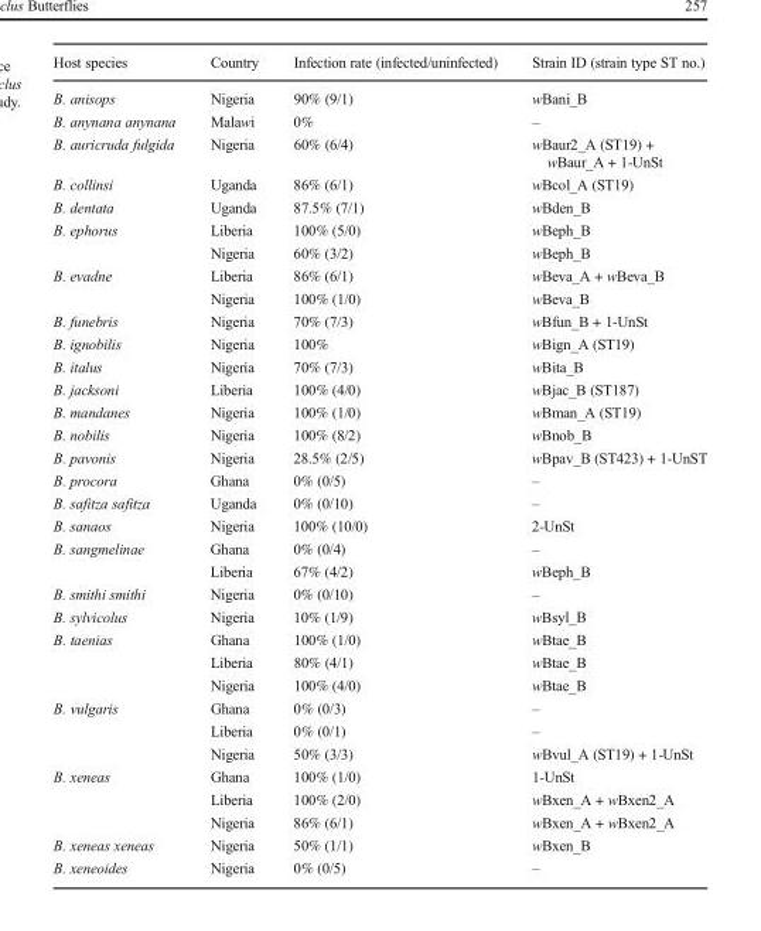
<table><thead><tr><td>Host species</td><td>Country</td><td>Infection rate (infected/uninfected)</td><td>Strain ID (strain type ST no.)</td></tr></thead><tbody><tr><td>B. anisops</td><td>Nigeria</td><td>90% (9/1)</td><td>wBani_B</td></tr><tr><td>B. anynana anynana</td><td>Malawi</td><td>0%</td><td>–</td></tr><tr><td>B. auricruda fulgida</td><td>Nigeria</td><td>60% (6/4)</td><td>wBaur2_A (ST19) + wBaur_A + 1-UnSt</td></tr><tr><td>B. collinsi</td><td>Uganda</td><td>86% (6/1)</td><td>wBcol_A (ST19)</td></tr><tr><td>B. dentata</td><td>Uganda</td><td>87.5% (7/1)</td><td>wBden_B</td></tr><tr><td>B. ephorus</td><td>Liberia Nigeria</td><td>100% (5/0) 60% (3/2)</td><td>wBeph_B wBeph_B</td></tr><tr><td>B. evadne</td><td>Liberia Nigeria</td><td>86% (6/1) 100% (1/0)</td><td>wBeva_A + wBeva_B wBeva_B</td></tr><tr><td>B. funebris</td><td>Nigeria</td><td>70% (7/3)</td><td>wBfun_B + 1-UnSt</td></tr><tr><td>B. ignobilis</td><td>Nigeria</td><td>100%</td><td>wBign_A (ST19)</td></tr><tr><td>B. italus</td><td>Nigeria</td><td>70% (7/3)</td><td>wBita_B</td></tr><tr><td>B. jacksoni</td><td>Liberia</td><td>100% (4/0)</td><td>wBjac_B (ST187)</td></tr><tr><td>B. mandanes</td><td>Nigeria</td><td>100% (1/0)</td><td>wBman_A (ST19)</td></tr><tr><td>B. nobilis</td><td>Nigeria</td><td>100% (8/2)</td><td>wBnob_B</td></tr><tr><td>B. pavonis</td><td>Nigeria</td><td>28.5% (2/5)</td><td>wBpav_B (ST423) + 1-UnST</td></tr><tr><td>B. procora</td><td>Ghana</td><td>0% (0/5)</td><td>–</td></tr><tr><td>B. safitza safitza</td><td>Uganda</td><td>0% (0/10)</td><td>–</td></tr><tr><td>B. sanaos</td><td>Nigeria</td><td>100% (10/0)</td><td>2-UnSt</td></tr><tr><td>B. sangmelinae</td><td>Ghana Liberia</td><td>0% (0/4) 67% (4/2)</td><td>– wBeph_B</td></tr><tr><td>B. smithi smithi</td><td>Nigeria</td><td>0% (0/10)</td><td>–</td></tr><tr><td>B. sylvicolus</td><td>Nigeria</td><td>10% (1/9)</td><td>wBsyl_B</td></tr><tr><td>B. taenias</td><td>Ghana Liberia Nigeria</td><td>100% (1/0) 80% (4/1) 100% (4/0)</td><td>wBtae_B wBtae_B wBtae_B</td></tr><tr><td>B. vulgaris</td><td>Ghana Liberia Nigeria</td><td>0% (0/3) 0% (0/1) 50% (3/3)</td><td>– – wBvul_A (ST19) + 1-UnSt</td></tr><tr><td>B. xeneas</td><td>Ghana Liberia Nigeria</td><td>100% (1/0) 100% (2/0) 86% (6/1)</td><td>1-UnSt wBxen_A + wBxen2_A wBxen_A + wBxen2_A</td></tr><tr><td>B. xeneas xeneas</td><td>Nigeria</td><td>50% (1/1)</td><td>wBxen_B</td></tr><tr><td>B. xeneoides</td><td>Nigeria</td><td>0% (0/5)</td><td>–</td></tr></tbody></table>